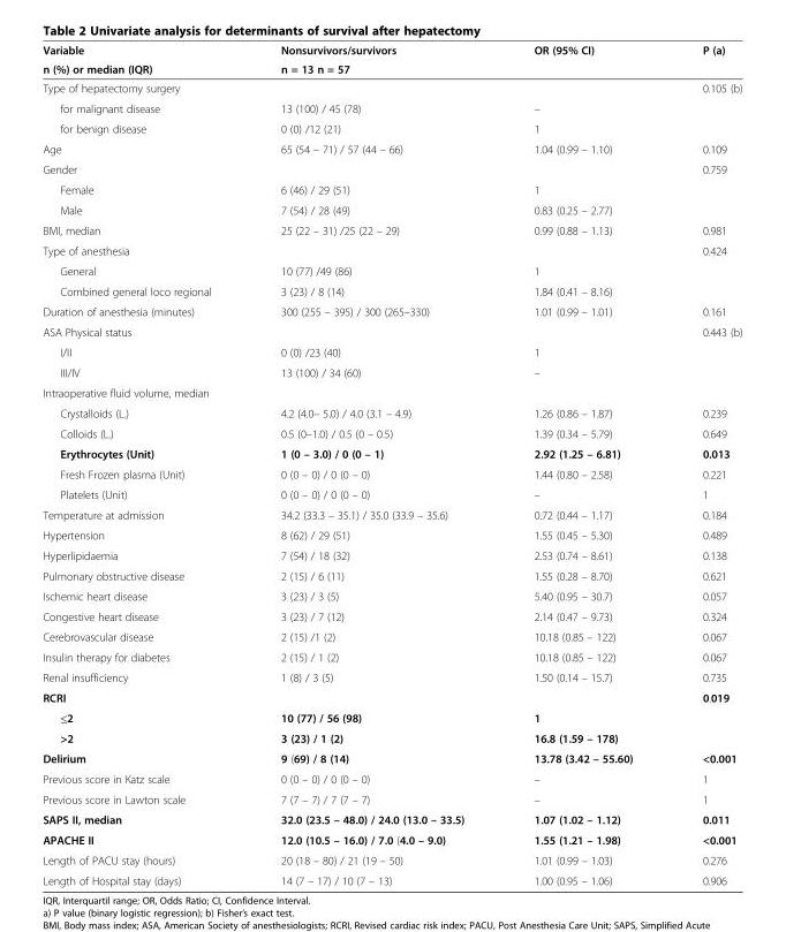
<table><thead><tr><td rowspan="2">Variable n (%) or median (IQR)</td><td rowspan="2">Nonsurvivors/survivors n = 13 n = 57</td><td rowspan="2">OR (95% CI)</td><td rowspan="2">P (a)</td></tr><tr></tr></thead><tbody><tr><td>Type of hepatectomy surgery</td><td></td><td></td><td>0.105 (b)</td></tr><tr><td>for malignant disease</td><td>13 (100) / 45 (78)</td><td>–</td><td></td></tr><tr><td>for benign disease</td><td>0 (0) /12 (21)</td><td>1</td><td></td></tr><tr><td>Age</td><td>65 (54 – 71) / 57 (44 – 66)</td><td>1.04 (0.99 – 1.10)</td><td>0.109</td></tr><tr><td>Gender</td><td></td><td></td><td>0.759</td></tr><tr><td>Female</td><td>6 (46) / 29 (51)</td><td>1</td><td></td></tr><tr><td>Male</td><td>7 (54) / 28 (49)</td><td>0.83 (0.25 – 2.77)</td><td></td></tr><tr><td>BMI, median</td><td>25 (22 – 31) /25 (22 – 29)</td><td>0.99 (0.88 – 1.13)</td><td>0.981</td></tr><tr><td>Type of anesthesia</td><td></td><td></td><td>0.424</td></tr><tr><td>General</td><td>10 (77) /49 (86)</td><td>1</td><td></td></tr><tr><td>Combined general loco regional</td><td>3 (23) / 8 (14)</td><td>1.84 (0.41 – 8.16)</td><td></td></tr><tr><td>Duration of anesthesia (minutes)</td><td>300 (255 – 395) / 300 (265–330)</td><td>1.01 (0.99 – 1.01)</td><td>0.161</td></tr><tr><td>ASA Physical status</td><td></td><td></td><td>0.443 (b)</td></tr><tr><td>I/II</td><td>0 (0) /23 (40)</td><td>1</td><td></td></tr><tr><td>III/IV</td><td>13 (100) / 34 (60)</td><td>–</td><td></td></tr><tr><td colspan="4">Intraoperative fluid volume, median</td></tr><tr><td>Crystalloids (L.)</td><td>4.2 (4.0– 5.0) / 4.0 (3.1 – 4.9)</td><td>1.26 (0.86 – 1.87)</td><td>0.239</td></tr><tr><td>Colloids (L.)</td><td>0.5 (0–1.0) / 0.5 (0 – 0.5)</td><td>1.39 (0.34 – 5.79)</td><td>0.649</td></tr><tr><td>Erythrocytes (Unit)</td><td>1 (0 – 3.0) / 0 (0 – 1)</td><td>2.92 (1.25 – 6.81)</td><td>0.013</td></tr><tr><td>Fresh Frozen plasma (Unit)</td><td>0 (0 – 0) / 0 (0 – 0)</td><td>1.44 (0.80 – 2.58)</td><td>0.221</td></tr><tr><td>Platelets (Unit)</td><td>0 (0 – 0) / 0 (0 – 0)</td><td>–</td><td>1</td></tr><tr><td>Temperature at admission</td><td>34.2 (33.3 – 35.1) / 35.0 (33.9 – 35.6)</td><td>0.72 (0.44 – 1.17)</td><td>0.184</td></tr><tr><td>Hypertension</td><td>8 (62) / 29 (51)</td><td>1.55 (0.45 – 5.30)</td><td>0.489</td></tr><tr><td>Hyperlipidaemia</td><td>7 (54) / 18 (32)</td><td>2.53 (0.74 – 8.61)</td><td>0.138</td></tr><tr><td>Pulmonary obstructive disease</td><td>2 (15) / 6 (11)</td><td>1.55 (0.28 – 8.70)</td><td>0.621</td></tr><tr><td>Ischemic heart disease</td><td>3 (23) / 3 (5)</td><td>5.40 (0.95 – 30.7)</td><td>0.057</td></tr><tr><td>Congestive heart disease</td><td>3 (23) / 7 (12)</td><td>2.14 (0.47 – 9.73)</td><td>0.324</td></tr><tr><td>Cerebrovascular disease</td><td>2 (15) /1 (2)</td><td>10.18 (0.85 – 122)</td><td>0.067</td></tr><tr><td>Insulin therapy for diabetes</td><td>2 (15) / 1 (2)</td><td>10.18 (0.85 – 122)</td><td>0.067</td></tr><tr><td>Renal insufficiency</td><td>1 (8) / 3 (5)</td><td>1.50 (0.14 – 15.7)</td><td>0.735</td></tr><tr><td>RCRI</td><td></td><td></td><td>0.019</td></tr><tr><td>≤2</td><td>10 (77) / 56 (98)</td><td>1</td><td></td></tr><tr><td>&gt;2</td><td>3 (23) / 1 (2)</td><td>16.8 (1.59 – 178)</td><td></td></tr><tr><td>Delirium</td><td>9 (69) / 8 (14)</td><td>13.78 (3.42 – 55.60)</td><td>&lt;0.001</td></tr><tr><td>Previous score in Katz scale</td><td>0 (0 – 0) / 0 (0 – 0)</td><td>–</td><td>1</td></tr><tr><td>Previous score in Lawton scale</td><td>7 (7 – 7) / 7 (7 – 7)</td><td>–</td><td>1</td></tr><tr><td>SAPS II, median</td><td>32.0 (23.5 – 48.0) / 24.0 (13.0 – 33.5)</td><td>1.07 (1.02 – 1.12)</td><td>0.011</td></tr><tr><td>APACHE II</td><td>12.0 (10.5 – 16.0) / 7.0 (4.0 – 9.0)</td><td>1.55 (1.21 – 1.98)</td><td>&lt;0.001</td></tr><tr><td>Length of PACU stay (hours)</td><td>20 (18 – 80) / 21 (19 – 50)</td><td>1.01 (0.99 – 1.03)</td><td>0.276</td></tr><tr><td>Length of Hospital stay (days)</td><td>14 (7 – 17) / 10 (7 – 13)</td><td>1.00 (0.95 – 1.06)</td><td>0.906</td></tr></tbody></table>